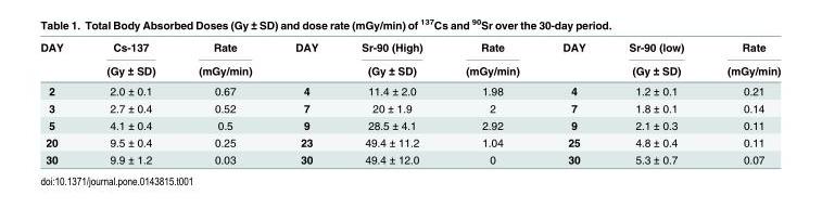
<table><thead><tr><td rowspan="2">DAY</td><td rowspan="2">Cs-137 (Gy ± SD)</td><td rowspan="2">Rate (mGy/min)</td><td rowspan="2">DAY</td><td rowspan="2">Sr-90 (High) (Gy ± SD)</td><td rowspan="2">Rate (mGy/min)</td><td rowspan="2">DAY</td><td rowspan="2">Sr-90 (low) (Gy ± SD)</td><td rowspan="2">Rate (mGy/min)</td></tr><tr></tr></thead><tbody><tr><td>2</td><td>2.0 ± 0.1</td><td>0.67</td><td>4</td><td>11.4 ± 2.0</td><td>1.98</td><td>4</td><td>1.2 ± 0.1</td><td>0.21</td></tr><tr><td>3</td><td>2.7 ± 0.4</td><td>0.52</td><td>7</td><td>20 ± 1.9</td><td>2</td><td>7</td><td>1.8 ± 0.1</td><td>0.14</td></tr><tr><td>5</td><td>4.1 ± 0.4</td><td>0.5</td><td>9</td><td>28.5 ± 4.1</td><td>2.92</td><td>9</td><td>2.1 ± 0.3</td><td>0.11</td></tr><tr><td>20</td><td>9.5 ± 0.4</td><td>0.25</td><td>23</td><td>49.4 ± 11.2</td><td>1.04</td><td>25</td><td>4.8 ± 0.4</td><td>0.11</td></tr><tr><td>30</td><td>9.9 ± 1.2</td><td>0.03</td><td>30</td><td>49.4 ± 12.0</td><td>0</td><td>30</td><td>5.3 ± 0.7</td><td>0.07</td></tr></tbody></table>